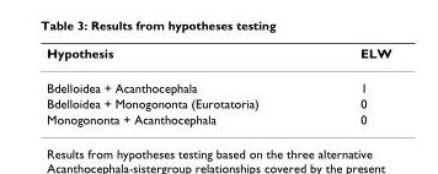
<table><thead><tr><td>Hypothesis</td><td>ELW</td></tr></thead><tbody><tr><td>Bdelloidea + Acanthocephala</td><td>1</td></tr><tr><td>Bdelloidea + Monogononta (Eurotatoria)</td><td>0</td></tr><tr><td>Monogononta + Acanthocephala</td><td>0</td></tr></tbody></table>